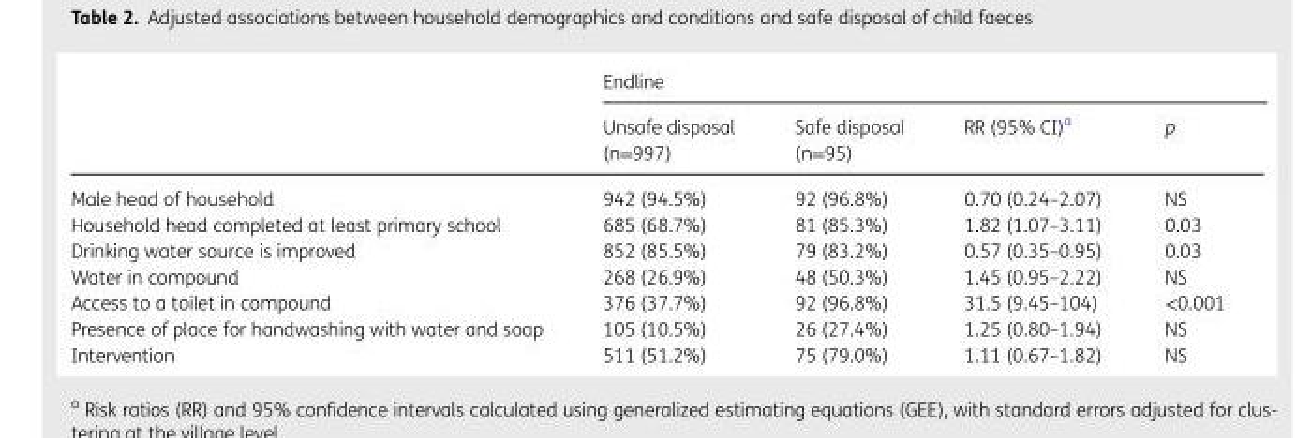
<table><thead><tr><td rowspan="2"></td><td colspan="4">Endline</td></tr><tr><td>Unsafe disposal (n=997)</td><td>Safe disposal (n=95)</td><td>RR (95% CI)<sup>a</sup></td><td>p</td></tr></thead><tbody><tr><td>Male head of household</td><td>942 (94.5%)</td><td>92 (96.8%)</td><td>0.70 (0.24–2.07)</td><td>NS</td></tr><tr><td>Household head completed at least primary school</td><td>685 (68.7%)</td><td>81 (85.3%)</td><td>1.82 (1.07–3.11)</td><td>0.03</td></tr><tr><td>Drinking water source is improved</td><td>852 (85.5%)</td><td>79 (83.2%)</td><td>0.57 (0.35–0.95)</td><td>0.03</td></tr><tr><td>Water in compound</td><td>268 (26.9%)</td><td>48 (50.3%)</td><td>1.45 (0.95–2.22)</td><td>NS</td></tr><tr><td>Access to a toilet in compound</td><td>376 (37.7%)</td><td>92 (96.8%)</td><td>31.5 (9.45–104)</td><td>&lt;0.001</td></tr><tr><td>Presence of place for handwashing with water and soap</td><td>105 (10.5%)</td><td>26 (27.4%)</td><td>1.25 (0.80–1.94)</td><td>NS</td></tr><tr><td>Intervention</td><td>511 (51.2%)</td><td>75 (79.0%)</td><td>1.11 (0.67–1.82)</td><td>NS</td></tr></tbody></table>